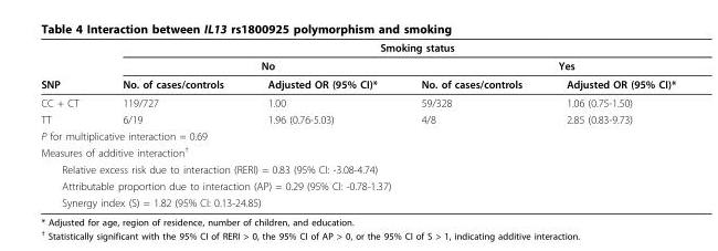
<table><thead><tr><td rowspan="3">SNP</td><td colspan="4">Smoking status</td></tr><tr><td colspan="2">No</td><td colspan="2">Yes</td></tr><tr><td>No. of cases/controls</td><td>Adjusted OR (95% CI)*</td><td>No. of cases/controls</td><td>Adjusted OR (95% CI)*</td></tr></thead><tbody><tr><td>CC + CT</td><td>119/727</td><td>1.00</td><td>59/328</td><td>1.06 (0.75-1.50)</td></tr><tr><td>TT</td><td>6/19</td><td>1.96 (0.76-5.03)</td><td>4/8</td><td>2.85 (0.83-9.73)</td></tr><tr><td colspan="5">P for multiplicative interaction = 0.69</td></tr><tr><td colspan="5">Measures of additive interaction<sup>†</sup></td></tr><tr><td colspan="5">Relative excess risk due to interaction (RERI) = 0.83 (95% CI: -3.08-4.74)</td></tr><tr><td colspan="5">Attributable proportion due to interaction (AP) = 0.29 (95% CI: -0.78-1.37)</td></tr><tr><td colspan="5">Synergy index (S) = 1.82 (95% CI: 0.13-24.85)</td></tr></tbody></table>